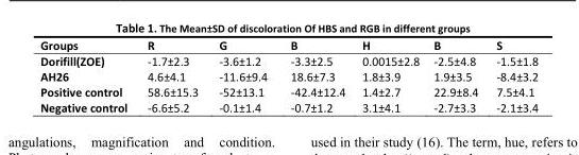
<table><thead><tr><td>Groups</td><td>R</td><td>G</td><td>B</td><td>H</td><td>B</td><td>S</td></tr></thead><tbody><tr><td>Dorifill(ZOE)</td><td>-1.7±2.3</td><td>-3.6±1.2</td><td>-3.3±2.5</td><td>0.0015±2.8</td><td>-2.5±4.8</td><td>-1.5±1.8</td></tr><tr><td>AH26</td><td>4.6±4.1</td><td>-11.6±9.4</td><td>18.6±7.3</td><td>1.8±3.9</td><td>1.9±3.5</td><td>-8.4±3.2</td></tr><tr><td>Positive control</td><td>58.6±15.3</td><td>-52±13.1</td><td>-42.4±12.4</td><td>1.4±2.7</td><td>22.9±8.4</td><td>7.5±4.1</td></tr><tr><td>Negative control</td><td>-6.6±5.2</td><td>-0.1±1.4</td><td>-0.7±1.2</td><td>3.1±4.1</td><td>-2.7±3.3</td><td>-2.1±3.4</td></tr></tbody></table>